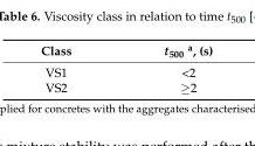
<table><thead><tr><td>Class</td><td>t<sub>500</sub> <sup>a</sup>, (s)</td></tr></thead><tbody><tr><td>VS1</td><td>&lt;2</td></tr><tr><td>VS2</td><td>≥2</td></tr></tbody></table>